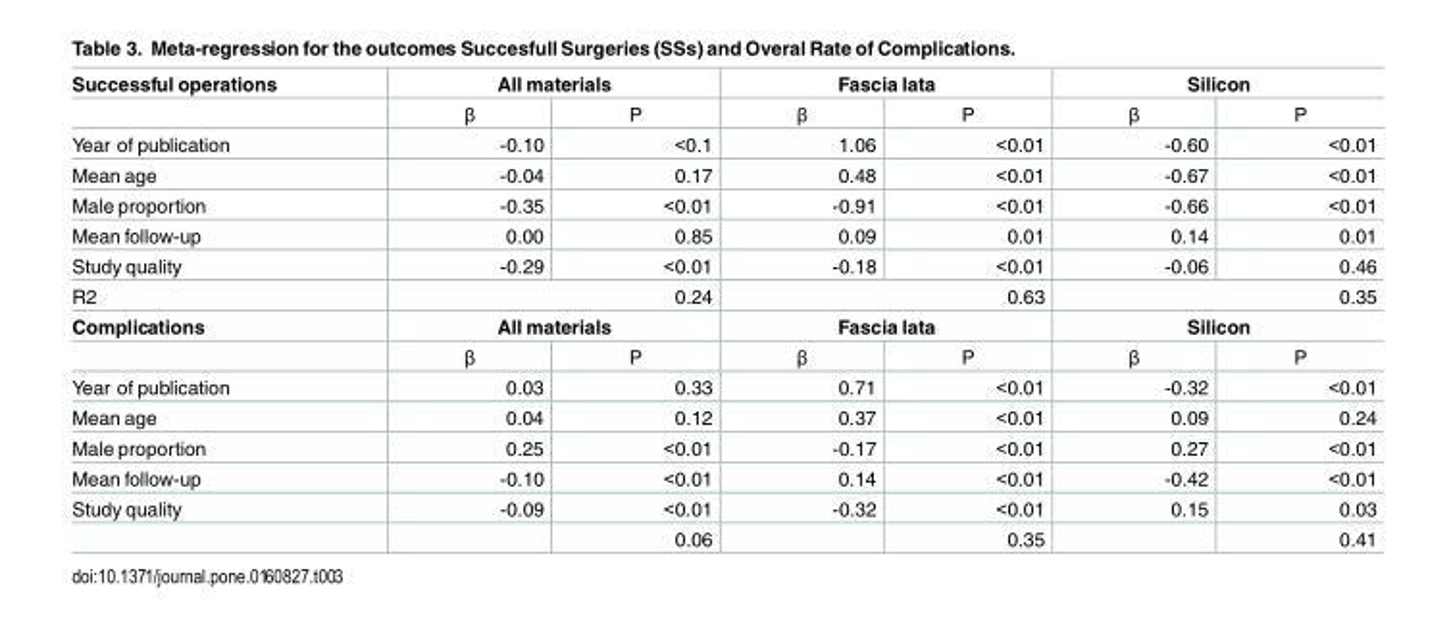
<table><tbody><tr><td rowspan="2">Successful operations</td><td colspan="2">All materials</td><td colspan="2">Fascia lata</td><td colspan="2">Silicon</td></tr><tr><td>β</td><td>P</td><td>β</td><td>P</td><td>β</td><td>P</td></tr><tr><td>Year of publication</td><td>-0.10</td><td>&lt;0.1</td><td>1.06</td><td>&lt;0.01</td><td>-0.60</td><td>&lt;0.01</td></tr><tr><td>Mean age</td><td>-0.04</td><td>0.17</td><td>0.48</td><td>&lt;0.01</td><td>-0.67</td><td>&lt;0.01</td></tr><tr><td>Male proportion</td><td>-0.35</td><td>&lt;0.01</td><td>-0.91</td><td>&lt;0.01</td><td>-0.66</td><td>&lt;0.01</td></tr><tr><td>Mean follow-up</td><td>0.00</td><td>0.85</td><td>0.09</td><td>0.01</td><td>0.14</td><td>0.01</td></tr><tr><td>Study quality</td><td>-0.29</td><td>&lt;0.01</td><td>-0.18</td><td>&lt;0.01</td><td>-0.06</td><td>0.46</td></tr><tr><td>R2</td><td colspan="2">0.24</td><td colspan="2">0.63</td><td colspan="2">0.35</td></tr><tr><td rowspan="2">Complications</td><td colspan="2">All materials</td><td colspan="2">Fascia lata</td><td colspan="2">Silicon</td></tr><tr><td>β</td><td>P</td><td>β</td><td>P</td><td>β</td><td>P</td></tr><tr><td>Year of publication</td><td>0.03</td><td>0.33</td><td>0.71</td><td>&lt;0.01</td><td>-0.32</td><td>&lt;0.01</td></tr><tr><td>Mean age</td><td>0.04</td><td>0.12</td><td>0.37</td><td>&lt;0.01</td><td>0.09</td><td>0.24</td></tr><tr><td>Male proportion</td><td>0.25</td><td>&lt;0.01</td><td>-0.17</td><td>&lt;0.01</td><td>0.27</td><td>&lt;0.01</td></tr><tr><td>Mean follow-up</td><td>-0.10</td><td>&lt;0.01</td><td>0.14</td><td>&lt;0.01</td><td>-0.42</td><td>&lt;0.01</td></tr><tr><td rowspan="2">Study quality</td><td>-0.09</td><td>&lt;0.01</td><td>-0.32</td><td>&lt;0.01</td><td>0.15</td><td>0.03</td></tr><tr><td></td><td>0.06</td><td></td><td>0.35</td><td></td><td>0.41</td></tr></tbody></table>